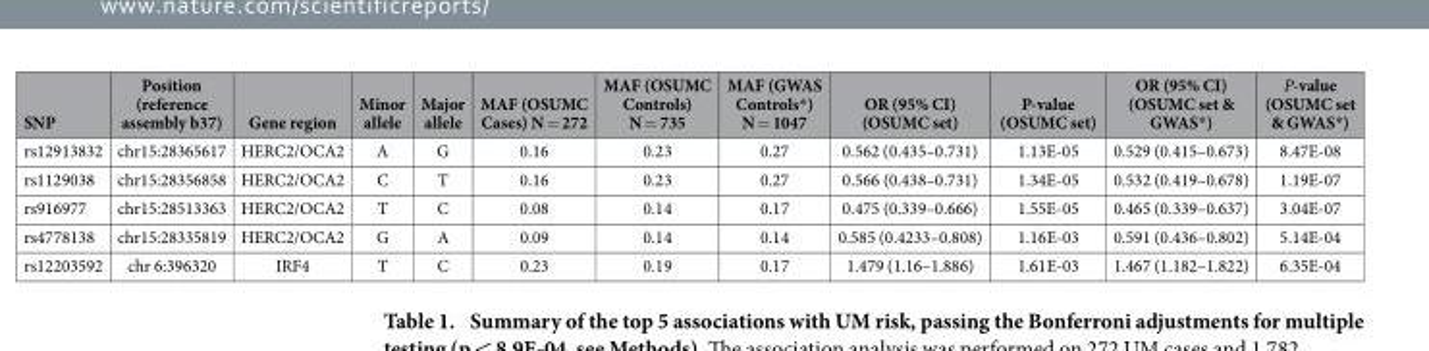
<table><thead><tr><td>SNP</td><td>Position (reference assembly b37)</td><td>Gene region</td><td>Minor allele</td><td>Major allele</td><td>MAF (OSUMC Cases) N = 272</td><td>MAF (OSUMC Controls) N = 735</td><td>MAF (GWAS Controls* ) N = 1047</td><td>OR (95% CI) (OSUMC set)</td><td>P-value (OSUMC set)</td><td>OR (95% CI) (OSUMC set &amp; GWAS* )</td><td>P-value (OSUMC set &amp; GWAS* )</td></tr></thead><tbody><tr><td>rs12913832</td><td>chr15:28365617</td><td>HERC2/OCA2</td><td>A</td><td>G</td><td>0.16</td><td>0.23</td><td>0.27</td><td>0.562 (0.435–0.731)</td><td>1.13E-05</td><td>0.529 (0.415–0.673)</td><td>8.47E-08</td></tr><tr><td>rs1129038</td><td>chr15:28356858</td><td>HERC2/OCA2</td><td>C</td><td>T</td><td>0.16</td><td>0.23</td><td>0.27</td><td>0.566 (0.438–0.731)</td><td>1.34E-05</td><td>0.532 (0.419–0.678)</td><td>1.19E-07</td></tr><tr><td>rs916977</td><td>chr15:28513363</td><td>HERC2/OCA2</td><td>T</td><td>C</td><td>0.08</td><td>0.14</td><td>0.17</td><td>0.475 (0.339–0.666)</td><td>1.55E-05</td><td>0.465 (0.339–0.637)</td><td>3.04E-07</td></tr><tr><td>rs4778138</td><td>chr15:28335819</td><td>HERC2/OCA2</td><td>G</td><td>A</td><td>0.09</td><td>0.14</td><td>0.14</td><td>0.585 (0.4233–0.808)</td><td>1.16E-03</td><td>0.591 (0.436–0.802)</td><td>5.14E-04</td></tr><tr><td>rs12203592</td><td>chr 6:396320</td><td>IRF4</td><td>T</td><td>C</td><td>0.23</td><td>0.19</td><td>0.17</td><td>1.479 (1.16–1.886)</td><td>1.61E-03</td><td>1.467 (1.182–1.822)</td><td>6.35E-04</td></tr></tbody></table>